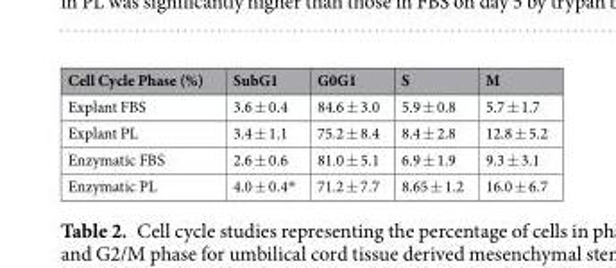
<table><thead><tr><td>Cell Cycle Phase (%)</td><td>SubG1</td><td>G0G1</td><td>S</td><td>M</td></tr></thead><tbody><tr><td>Explant FBS</td><td>3.6 ± 0.4</td><td>84.6 ± 3.0</td><td>5.9 ± 0.8</td><td>5.7 ± 1.7</td></tr><tr><td>Explant PL</td><td>3.4 ± 1.1</td><td>75.2 ± 8.4</td><td>8.4 ± 2.8</td><td>12.8 ± 5.2</td></tr><tr><td>Enzymatic FBS</td><td>2.6 ± 0.6</td><td>81.0 ± 5.1</td><td>6.9 ± 1.9</td><td>9.3 ± 3.1</td></tr><tr><td>Enzymatic PL</td><td>4.0 ± 0.4*</td><td>71.2 ± 7.7</td><td>8.65 ± 1.2</td><td>16.0 ± 6.7</td></tr></tbody></table>